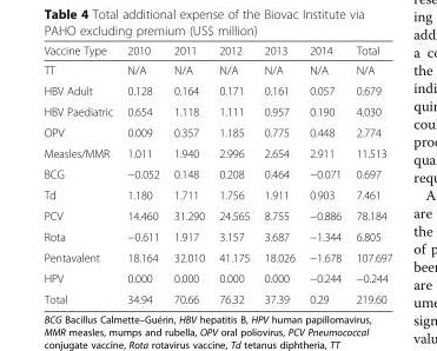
<table><thead><tr><td>Vaccine Type</td><td>2010</td><td>2011</td><td>2012</td><td>2013</td><td>2014</td><td>Total</td></tr></thead><tbody><tr><td>TT</td><td>N/A</td><td>N/A</td><td>N/A</td><td>N/A</td><td>N/A</td><td>N/A</td></tr><tr><td>HBV Adult</td><td>0.128</td><td>0.164</td><td>0.171</td><td>0.161</td><td>0.057</td><td>0.679</td></tr><tr><td>HBV Paediatric</td><td>0.654</td><td>1.118</td><td>1.111</td><td>0.957</td><td>0.190</td><td>4.030</td></tr><tr><td>OPV</td><td>0.009</td><td>0.357</td><td>1.185</td><td>0.775</td><td>0.448</td><td>2.774</td></tr><tr><td>Measles/MMR</td><td>1.011</td><td>1.940</td><td>2.996</td><td>2.654</td><td>2.911</td><td>11.513</td></tr><tr><td>BCG</td><td>−0.052</td><td>0.148</td><td>0.208</td><td>0.464</td><td>−0.071</td><td>0.697</td></tr><tr><td>Td</td><td>1.180</td><td>1.711</td><td>1.756</td><td>1.911</td><td>0.903</td><td>7.461</td></tr><tr><td>PCV</td><td>14.460</td><td>31.290</td><td>24.565</td><td>8.755</td><td>−0.886</td><td>78.184</td></tr><tr><td>Rota</td><td>−0.611</td><td>1.917</td><td>3.157</td><td>3.687</td><td>−1.344</td><td>6.805</td></tr><tr><td>Pentavalent</td><td>18.164</td><td>32.010</td><td>41.175</td><td>18.026</td><td>−1.678</td><td>107.697</td></tr><tr><td>HPV</td><td>0.000</td><td>0.000</td><td>0.000</td><td>0.000</td><td>−0.244</td><td>−0.244</td></tr><tr><td>Total</td><td>34.94</td><td>70.66</td><td>76.32</td><td>37.39</td><td>0.29</td><td>219.60</td></tr></tbody></table>